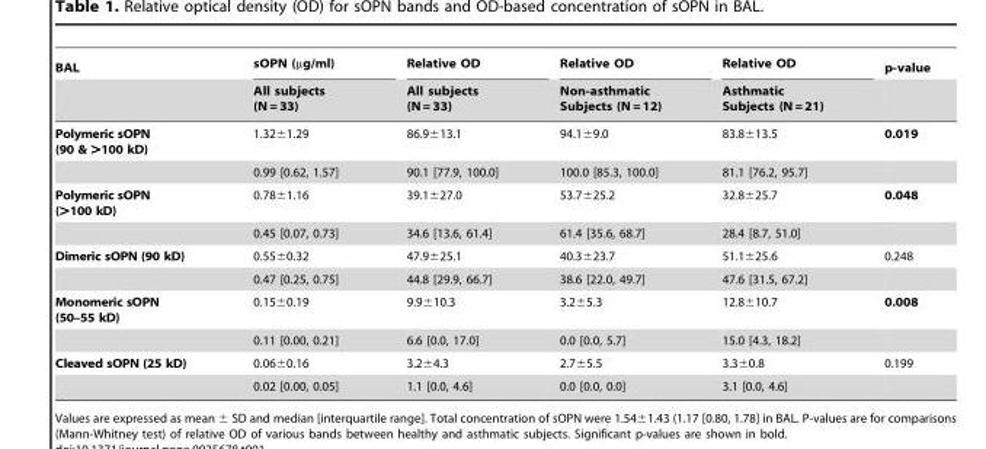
<table><thead><tr><td rowspan="2">BAL</td><td rowspan="2">sOPN (µg/ml) All subjects (N = 33)</td><td rowspan="2">Relative OD All subjects (N = 33)</td><td rowspan="2">Relative OD Non-asthmatic Subjects (N = 12)</td><td rowspan="2">Relative OD Asthmatic Subjects (N = 21)</td><td rowspan="2">p-value</td></tr><tr></tr></thead><tbody><tr><td rowspan="2">Polymeric sOPN (90 &amp; &gt;100 kD)</td><td>1.32±1.29</td><td>86.9±13.1</td><td>94.1±9.0</td><td>83.8±13.5</td><td>0.019</td></tr><tr><td>0.99 [0.62, 1.57]</td><td>90.1 [77.9, 100.0]</td><td>100.0 [85.3, 100.0]</td><td>81.1 [76.2, 95.7]</td><td></td></tr><tr><td rowspan="2">Polymeric sOPN (&gt;100 kD)</td><td>0.78±1.16</td><td>39.1±27.0</td><td>53.7±25.2</td><td>32.8±25.7</td><td>0.048</td></tr><tr><td>0.45 [0.07, 0.73]</td><td>34.6 [13.6, 61.4]</td><td>61.4 [35.6, 68.7]</td><td>28.4 [8.7, 51.0]</td><td></td></tr><tr><td rowspan="2">Dimeric sOPN (90 kD)</td><td>0.55±0.32</td><td>47.9±25.1</td><td>40.3±23.7</td><td>51.1±25.6</td><td>0.248</td></tr><tr><td>0.47 [0.25, 0.75]</td><td>44.8 [29.9, 66.7]</td><td>38.6 [22.0, 49.7]</td><td>47.6 [31.5, 67.2]</td><td></td></tr><tr><td rowspan="2">Monomeric sOPN (50–55 kD)</td><td>0.15±0.19</td><td>9.9±10.3</td><td>3.2±5.3</td><td>12.8±10.7</td><td>0.008</td></tr><tr><td>0.11 [0.00, 0.21]</td><td>6.6 [0.0, 17.0]</td><td>0.0 [0.0, 5.7]</td><td>15.0 [4.3, 18.2]</td><td></td></tr><tr><td rowspan="2">Cleaved sOPN (25 kD)</td><td>0.06±0.16</td><td>3.2±4.3</td><td>2.7±5.5</td><td>3.3±0.8</td><td>0.199</td></tr><tr><td>0.02 [0.00, 0.05]</td><td>1.1 [0.0, 4.6]</td><td>0.0 [0.0, 0.0]</td><td>3.1 [0.0, 4.6]</td><td></td></tr></tbody></table>